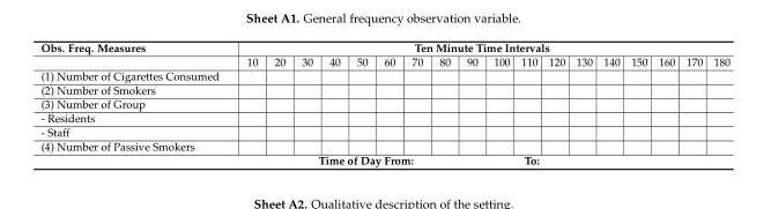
<table><thead><tr><td rowspan="2">Obs. Freq. Measures</td><td colspan="18">Ten Minute Time Intervals</td></tr><tr><td>10</td><td>20</td><td>30</td><td>40</td><td>50</td><td>60</td><td>70</td><td>80</td><td>90</td><td>100</td><td>110</td><td>120</td><td>130</td><td>140</td><td>150</td><td>160</td><td>170</td><td>180</td></tr></thead><tbody><tr><td colspan="19">(1) Number of Cigarettes Consumed</td></tr><tr><td colspan="19">(2) Number of Smokers</td></tr><tr><td colspan="19">(3) Number of Group</td></tr><tr><td colspan="19">- Residents</td></tr><tr><td colspan="19">- Staff</td></tr><tr><td colspan="19">(4) Number of Passive Smokers</td></tr><tr><td colspan="19">Time of Day From: To:</td></tr></tbody></table>